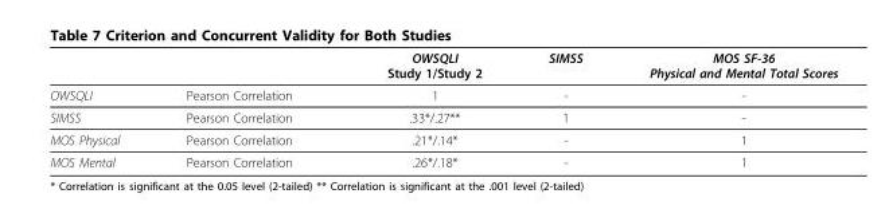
<table><thead><tr><td></td><td></td><td>OWSQLI Study 1/Study 2</td><td>SIMSS</td><td>MOS SF-36 Physical and Mental Total Scores</td></tr></thead><tbody><tr><td>OWSQLI</td><td>Pearson Correlation</td><td>1</td><td>-</td><td>-</td></tr><tr><td>SIMSS</td><td>Pearson Correlation</td><td>.33*/.27**</td><td>1</td><td>-</td></tr><tr><td>MOS Physical</td><td>Pearson Correlation</td><td>.21*/.14*</td><td>-</td><td>1</td></tr><tr><td>MOS Mental</td><td>Pearson Correlation</td><td>.26*/.18*</td><td>-</td><td>1</td></tr></tbody></table>